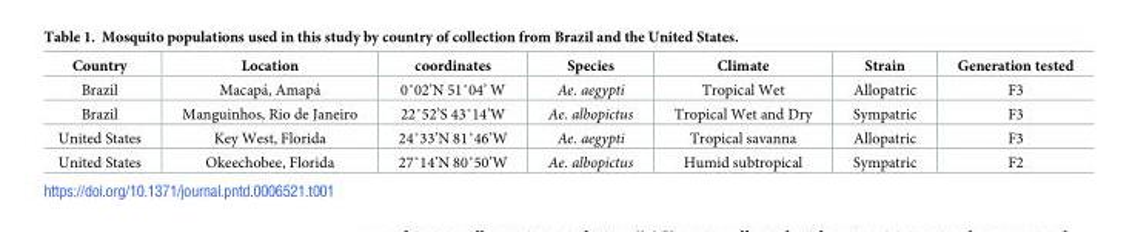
<table><thead><tr><td>Country</td><td>Location</td><td>coordinates</td><td>Species</td><td>Climate</td><td>Strain</td><td>Generation tested</td></tr></thead><tbody><tr><td>Brazil</td><td>Macapa´, Amapa´</td><td>0˚02’N 51˚04’ W</td><td>Ae. aegypti</td><td>Tropical Wet</td><td>Allopatric</td><td>F3</td></tr><tr><td>Brazil</td><td>Manguinhos, Rio de Janeiro</td><td>22˚52’S 43˚14’W</td><td>Ae. albopictus</td><td>Tropical Wet and Dry</td><td>Sympatric</td><td>F3</td></tr><tr><td>United States</td><td>Key West, Florida</td><td>24˚33’N 81˚46’W</td><td>Ae. aegypti</td><td>Tropical savanna</td><td>Allopatric</td><td>F3</td></tr><tr><td>United States</td><td>Okeechobee, Florida</td><td>27˚14’N 80˚50’W</td><td>Ae. albopictus</td><td>Humid subtropical</td><td>Sympatric</td><td>F2</td></tr></tbody></table>